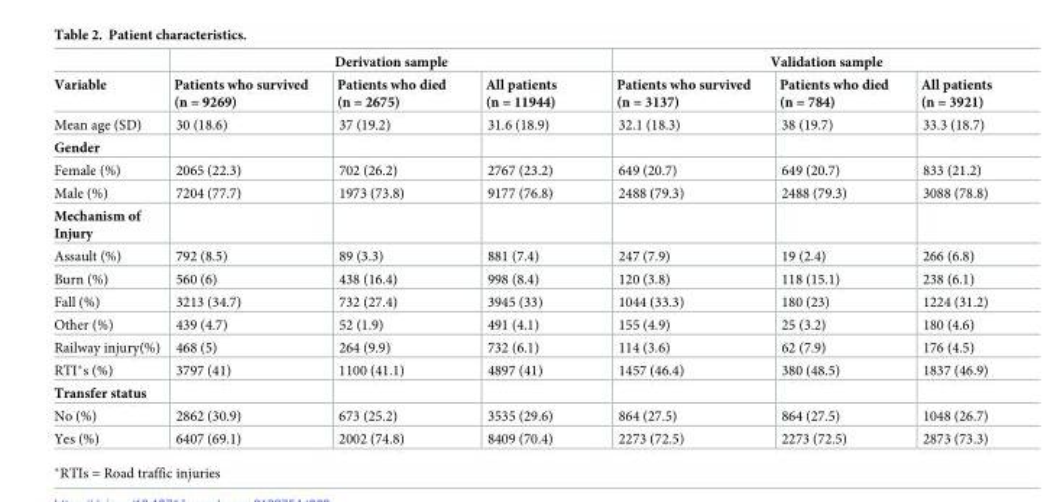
<table><thead><tr><td rowspan="2">Variable</td><td colspan="3">Derivation sample</td><td colspan="3">Validation sample</td></tr><tr><td>Patients who survived (n = 9269)</td><td>Patients who died (n = 2675)</td><td>All patients (n = 11944)</td><td>Patients who survived (n = 3137)</td><td>Patients who died (n = 784)</td><td>All patients (n = 3921)</td></tr></thead><tbody><tr><td>Mean age (SD)</td><td>30 (18.6)</td><td>37 (19.2)</td><td>31.6 (18.9)</td><td>32.1 (18.3)</td><td>38 (19.7)</td><td>33.3 (18.7)</td></tr><tr><td colspan="7">Gender</td></tr><tr><td>Female (%)</td><td>2065 (22.3)</td><td>702 (26.2)</td><td>2767 (23.2)</td><td>649 (20.7)</td><td>649 (20.7)</td><td>833 (21.2)</td></tr><tr><td>Male (%)</td><td>7204 (77.7)</td><td>1973 (73.8)</td><td>9177 (76.8)</td><td>2488 (79.3)</td><td>2488 (79.3)</td><td>3088 (78.8)</td></tr><tr><td colspan="7">Mechanism of Injury</td></tr><tr><td>Assault (%)</td><td>792 (8.5)</td><td>89 (3.3)</td><td>881 (7.4)</td><td>247 (7.9)</td><td>19 (2.4)</td><td>266 (6.8)</td></tr><tr><td>Burn (%)</td><td>560 (6)</td><td>438 (16.4)</td><td>998 (8.4)</td><td>120 (3.8)</td><td>118 (15.1)</td><td>238 (6.1)</td></tr><tr><td>Fall (%)</td><td>3213 (34.7)</td><td>732 (27.4)</td><td>3945 (33)</td><td>1044 (33.3)</td><td>180 (23)</td><td>1224 (31.2)</td></tr><tr><td>Other (%)</td><td>439 (4.7)</td><td>52 (1.9)</td><td>491 (4.1)</td><td>155 (4.9)</td><td>25 (3.2)</td><td>180 (4.6)</td></tr><tr><td>Railway injury(%)</td><td>468 (5)</td><td>264 (9.9)</td><td>732 (6.1)</td><td>114 (3.6)</td><td>62 (7.9)</td><td>176 (4.5)</td></tr><tr><td>RTI*s (%)</td><td>3797 (41)</td><td>1100 (41.1)</td><td>4897 (41)</td><td>1457 (46.4)</td><td>380 (48.5)</td><td>1837 (46.9)</td></tr><tr><td colspan="7">Transfer status</td></tr><tr><td>No (%)</td><td>2862 (30.9)</td><td>673 (25.2)</td><td>3535 (29.6)</td><td>864 (27.5)</td><td>864 (27.5)</td><td>1048 (26.7)</td></tr><tr><td>Yes (%)</td><td>6407 (69.1)</td><td>2002 (74.8)</td><td>8409 (70.4)</td><td>2273 (72.5)</td><td>2273 (72.5)</td><td>2873 (73.3)</td></tr></tbody></table>